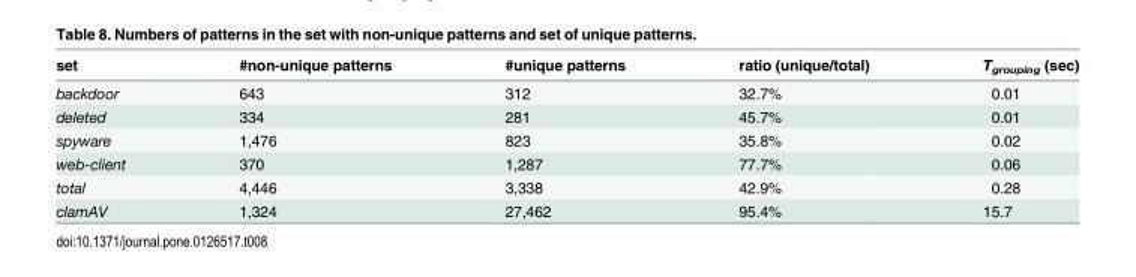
<table><thead><tr><td>set</td><td>#non-unique patterns</td><td>#unique patterns</td><td>ratio (unique/total)</td><td>T<sub>grouping</sub> (sec)</td></tr></thead><tbody><tr><td>backdoor</td><td>643</td><td>312</td><td>32.7%</td><td>0.01</td></tr><tr><td>deleted</td><td>334</td><td>281</td><td>45.7%</td><td>0.01</td></tr><tr><td>spyware</td><td>1,476</td><td>823</td><td>35.8%</td><td>0.02</td></tr><tr><td>web-client</td><td>370</td><td>1,287</td><td>77.7%</td><td>0.06</td></tr><tr><td>total</td><td>4,446</td><td>3,338</td><td>42.9%</td><td>0.28</td></tr><tr><td>clamAV</td><td>1,324</td><td>27,462</td><td>95.4%</td><td>15.7</td></tr></tbody></table>